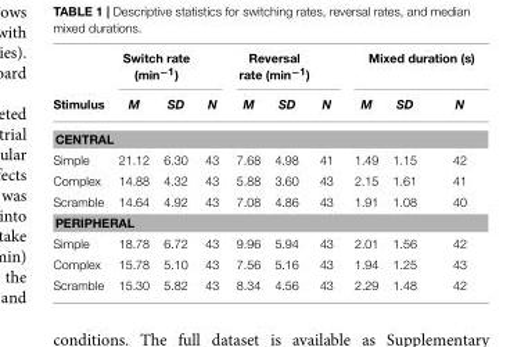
<table><thead><tr><td rowspan="2">Stimulus</td><td colspan="3">Switch rate (min<sup>−1</sup>)</td><td colspan="3">Reversal rate (min<sup>−1</sup>)</td><td colspan="3">Mixed duration (s)</td></tr><tr><td>M</td><td>SD</td><td>N</td><td>M</td><td>SD</td><td>N</td><td>M</td><td>SD</td><td>N</td></tr></thead><tbody><tr><td colspan="10">CENTRAL</td></tr><tr><td>Simple</td><td>21.12</td><td>6.30</td><td>43</td><td>7.68</td><td>4.98</td><td>41</td><td>1.49</td><td>1.15</td><td>42</td></tr><tr><td>Complex</td><td>14.88</td><td>4.32</td><td>43</td><td>5.88</td><td>3.60</td><td>43</td><td>2.15</td><td>1.61</td><td>41</td></tr><tr><td>Scramble</td><td>14.64</td><td>4.92</td><td>43</td><td>7.08</td><td>4.86</td><td>43</td><td>1.91</td><td>1.08</td><td>40</td></tr><tr><td colspan="10">PERIPHERAL</td></tr><tr><td>Simple</td><td>18.78</td><td>6.72</td><td>43</td><td>9.96</td><td>5.94</td><td>43</td><td>2.01</td><td>1.56</td><td>42</td></tr><tr><td>Complex</td><td>15.78</td><td>5.10</td><td>43</td><td>7.56</td><td>5.16</td><td>43</td><td>1.94</td><td>1.25</td><td>43</td></tr><tr><td>Scramble</td><td>15.30</td><td>5.82</td><td>43</td><td>8.34</td><td>4.56</td><td>43</td><td>2.29</td><td>1.48</td><td>42</td></tr></tbody></table>